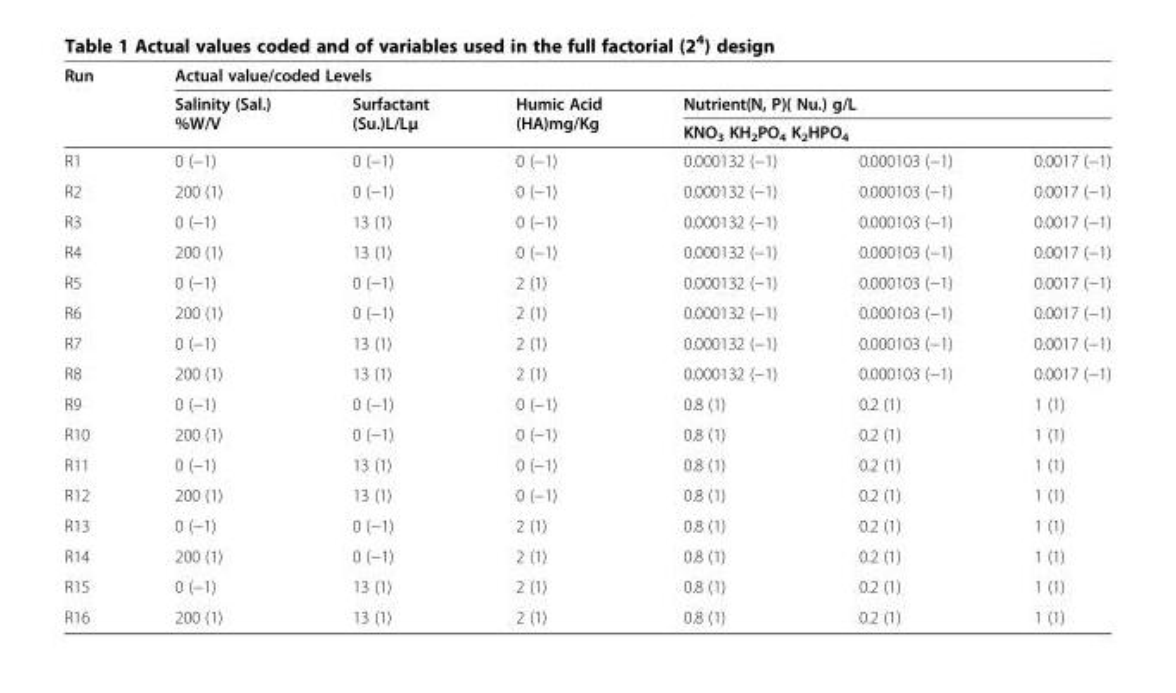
<table><thead><tr><td rowspan="4">Run R1</td><td colspan="6">Actual value/coded Levels</td></tr><tr><td rowspan="3">Salinity (Sal.) %W/V 0 (−1)</td><td rowspan="3">Surfactant (Su.)L/Lμ 0 (−1)</td><td rowspan="3">Humic Acid (HA)mg/Kg 0 (−1)</td><td rowspan="2" colspan="3">Nutrient(N, P)( Nu.) g/L KNO<sub>3</sub> KH<sub>2</sub>PO<sub>4</sub> K<sub>2</sub>HPO<sub>4</sub></td></tr><tr></tr><tr><td>0.000132 (−1)</td><td>0.000103 (−1)</td><td>0.0017 (−1)</td></tr></thead><tbody><tr><td>R2</td><td>200 (1)</td><td>0 (−1)</td><td>0 (−1)</td><td>0.000132 (−1)</td><td>0.000103 (−1)</td><td>0.0017 (−1)</td></tr><tr><td>R3</td><td>0 (−1)</td><td>13 (1)</td><td>0 (−1)</td><td>0.000132 (−1)</td><td>0.000103 (−1)</td><td>0.0017 (−1)</td></tr><tr><td>R4</td><td>200 (1)</td><td>13 (1)</td><td>0 (−1)</td><td>0.000132 (−1)</td><td>0.000103 (−1)</td><td>0.0017 (−1)</td></tr><tr><td>R5</td><td>0 (−1)</td><td>0 (−1)</td><td>2 (1)</td><td>0.000132 (−1)</td><td>0.000103 (−1)</td><td>0.0017 (−1)</td></tr><tr><td>R6</td><td>200 (1)</td><td>0 (−1)</td><td>2 (1)</td><td>0.000132 (−1)</td><td>0.000103 (−1)</td><td>0.0017 (−1)</td></tr><tr><td>R7</td><td>0 (−1)</td><td>13 (1)</td><td>2 (1)</td><td>0.000132 (−1)</td><td>0.000103 (−1)</td><td>0.0017 (−1)</td></tr><tr><td>R8</td><td>200 (1)</td><td>13 (1)</td><td>2 (1)</td><td>0.000132 (−1)</td><td>0.000103 (−1)</td><td>0.0017 (−1)</td></tr><tr><td>R9</td><td>0 (−1)</td><td>0 (−1)</td><td>0 (−1)</td><td>0.8 (1)</td><td>0.2 (1)</td><td>1 (1)</td></tr><tr><td>R10</td><td>200 (1)</td><td>0 (−1)</td><td>0 (−1)</td><td>0.8 (1)</td><td>0.2 (1)</td><td>1 (1)</td></tr><tr><td>R11</td><td>0 (−1)</td><td>13 (1)</td><td>0 (−1)</td><td>0.8 (1)</td><td>0.2 (1)</td><td>1 (1)</td></tr><tr><td>R12</td><td>200 (1)</td><td>13 (1)</td><td>0 (−1)</td><td>0.8 (1)</td><td>0.2 (1)</td><td>1 (1)</td></tr><tr><td>R13</td><td>0 (−1)</td><td>0 (−1)</td><td>2 (1)</td><td>0.8 (1)</td><td>0.2 (1)</td><td>1 (1)</td></tr><tr><td>R14</td><td>200 (1)</td><td>0 (−1)</td><td>2 (1)</td><td>0.8 (1)</td><td>0.2 (1)</td><td>1 (1)</td></tr><tr><td>R15</td><td>0 (−1)</td><td>13 (1)</td><td>2 (1)</td><td>0.8 (1)</td><td>0.2 (1)</td><td>1 (1)</td></tr><tr><td>R16</td><td>200 (1)</td><td>13 (1)</td><td>2 (1)</td><td>0.8 (1)</td><td>0.2 (1)</td><td>1 (1)</td></tr></tbody></table>